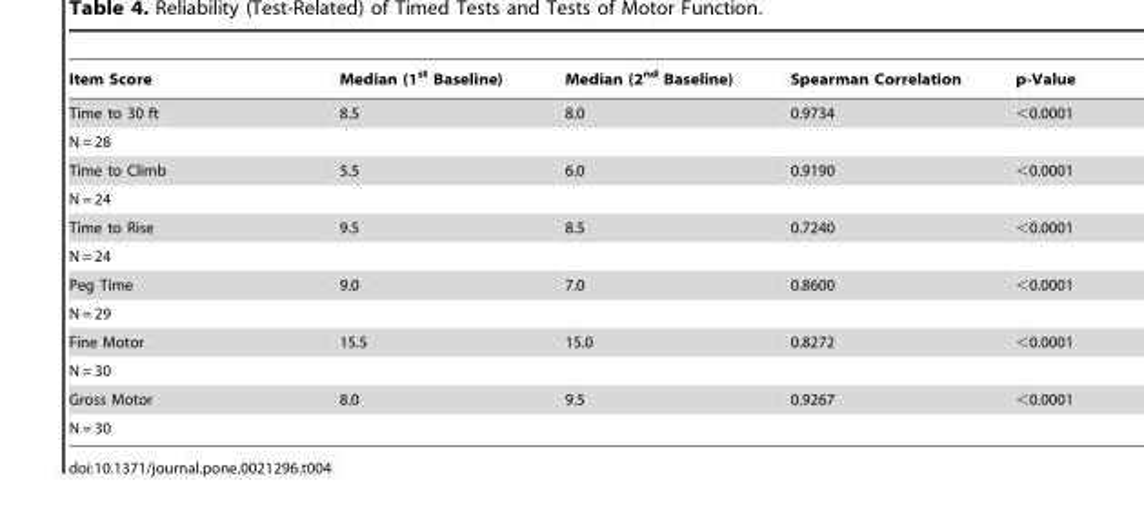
<table><thead><tr><td>Item Score</td><td>Median (1<sup>st</sup> Baseline)</td><td>Median (2<sup>nd</sup> Baseline)</td><td>Spearman Correlation</td><td>p-Value</td></tr></thead><tbody><tr><td>Time to 30 ft</td><td>8.5</td><td>8.0</td><td>0.9734</td><td>&lt;0.0001</td></tr><tr><td colspan="5">N = 28</td></tr><tr><td>Time to Climb</td><td>5.5</td><td>6.0</td><td>0.9190</td><td>&lt;0.0001</td></tr><tr><td colspan="5">N = 24</td></tr><tr><td>Time to Rise</td><td>9.5</td><td>8.5</td><td>0.7240</td><td>&lt;0.0001</td></tr><tr><td colspan="5">N = 24</td></tr><tr><td>Peg Time</td><td>9.0</td><td>7.0</td><td>0.8600</td><td>&lt;0.0001</td></tr><tr><td colspan="5">N = 29</td></tr><tr><td>Fine Motor</td><td>15.5</td><td>15.0</td><td>0.8272</td><td>&lt;0.0001</td></tr><tr><td colspan="5">N = 30</td></tr><tr><td>Gross Motor</td><td>8.0</td><td>9.5</td><td>0.9267</td><td>&lt;0.0001</td></tr><tr><td>N = 30</td><td></td><td></td><td></td><td></td></tr></tbody></table>